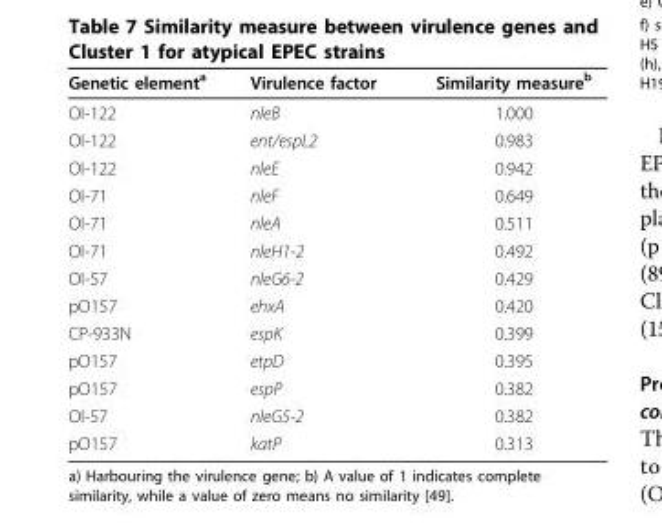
<table><thead><tr><td>Genetic element<sup>a</sup></td><td>Virulence factor</td><td>Similarity measure<sup>b</sup></td></tr></thead><tbody><tr><td>OI-122</td><td>nleB</td><td>1.000</td></tr><tr><td>OI-122</td><td>ent/espL2</td><td>0.983</td></tr><tr><td>OI-122</td><td>nleE</td><td>0.942</td></tr><tr><td>OI-71</td><td>nleF</td><td>0.649</td></tr><tr><td>OI-71</td><td>nleA</td><td>0.511</td></tr><tr><td>OI-71</td><td>nleH1-2</td><td>0.492</td></tr><tr><td>OI-57</td><td>nleG6-2</td><td>0.429</td></tr><tr><td>pO157</td><td>ehxA</td><td>0.420</td></tr><tr><td>CP-933N</td><td>espK</td><td>0.399</td></tr><tr><td>pO157</td><td>etpD</td><td>0.395</td></tr><tr><td>pO157</td><td>espP</td><td>0.382</td></tr><tr><td>OI-57</td><td>nleG5-2</td><td>0.382</td></tr><tr><td>pO157</td><td>katP</td><td>0.313</td></tr></tbody></table>